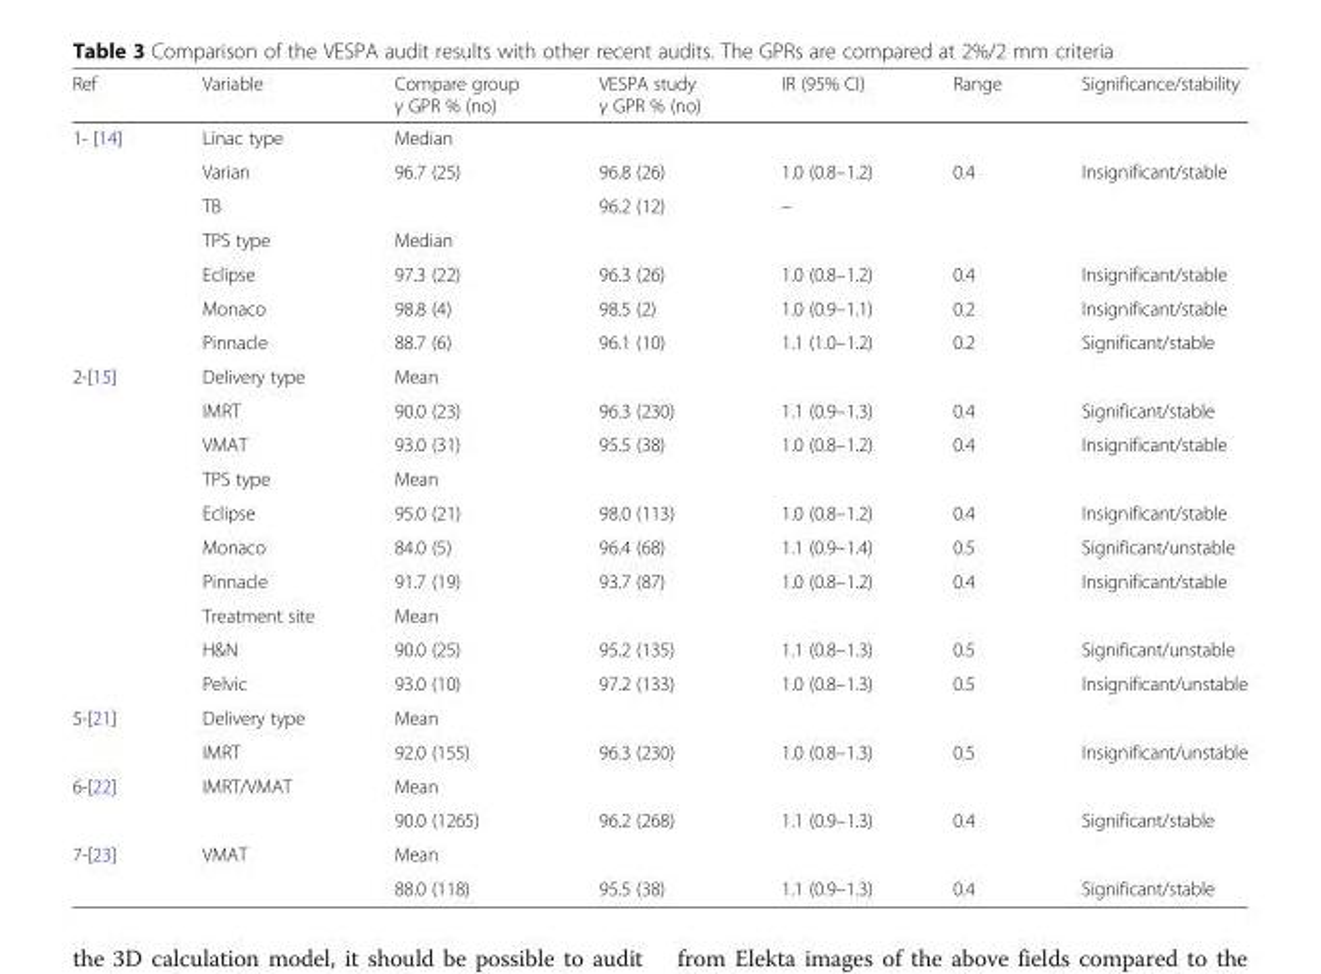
<table><thead><tr><td>Ref</td><td>Variable</td><td>Compare group γ GPR % (no)</td><td>VESPA study γ GPR % (no)</td><td>IR (95% CI)</td><td>Range</td><td>Significance/stability</td></tr></thead><tbody><tr><td rowspan="7">1- [14]</td><td>Linac type</td><td colspan="3">Median</td><td></td><td></td></tr><tr><td>Varian</td><td>96.7 (25)</td><td>96.8 (26)</td><td>1.0 (0.8–1.2)</td><td>0.4</td><td>Insignificant/stable</td></tr><tr><td>TB</td><td></td><td>96.2 (12)</td><td>–</td><td></td><td></td></tr><tr><td>TPS type</td><td colspan="3">Median</td><td></td><td></td></tr><tr><td>Eclipse</td><td>97.3 (22)</td><td>96.3 (26)</td><td>1.0 (0.8–1.2)</td><td>0.4</td><td>Insignificant/stable</td></tr><tr><td>Monaco</td><td>98.8 (4)</td><td>98.5 (2)</td><td>1.0 (0.9–1.1)</td><td>0.2</td><td>Insignificant/stable</td></tr><tr><td>Pinnacle</td><td>88.7 (6)</td><td>96.1 (10)</td><td>1.1 (1.0–1.2)</td><td>0.2</td><td>Significant/stable</td></tr><tr><td rowspan="10">2-[15]</td><td>Delivery type</td><td colspan="3">Mean</td><td></td><td></td></tr><tr><td>IMRT</td><td>90.0 (23)</td><td>96.3 (230)</td><td>1.1 (0.9–1.3)</td><td>0.4</td><td>Significant/stable</td></tr><tr><td>VMAT</td><td>93.0 (31)</td><td>95.5 (38)</td><td>1.0 (0.8–1.2)</td><td>0.4</td><td>Insignificant/stable</td></tr><tr><td>TPS type</td><td colspan="3">Mean</td><td></td><td></td></tr><tr><td>Eclipse</td><td>95.0 (21)</td><td>98.0 (113)</td><td>1.0 (0.8–1.2)</td><td>0.4</td><td>Insignificant/stable</td></tr><tr><td>Monaco</td><td>84.0 (5)</td><td>96.4 (68)</td><td>1.1 (0.9–1.4)</td><td>0.5</td><td>Significant/unstable</td></tr><tr><td>Pinnacle</td><td>91.7 (19)</td><td>93.7 (87)</td><td>1.0 (0.8–1.2)</td><td>0.4</td><td>Insignificant/stable</td></tr><tr><td>Treatment site</td><td colspan="3">Mean</td><td></td><td></td></tr><tr><td>H&amp;N</td><td>90.0 (25)</td><td>95.2 (135)</td><td>1.1 (0.8–1.3)</td><td>0.5</td><td>Significant/unstable</td></tr><tr><td>Pelvic</td><td>93.0 (10)</td><td>97.2 (133)</td><td>1.0 (0.8–1.3)</td><td>0.5</td><td>Insignificant/unstable</td></tr><tr><td rowspan="2">5-[21]</td><td>Delivery type</td><td colspan="3">Mean</td><td></td><td></td></tr><tr><td>IMRT</td><td>92.0 (155)</td><td>96.3 (230)</td><td>1.0 (0.8–1.3)</td><td>0.5</td><td>Insignificant/unstable</td></tr><tr><td rowspan="2">6-[22]</td><td rowspan="2">IMRT/VMAT</td><td colspan="3">Mean</td><td></td><td></td></tr><tr><td>90.0 (1265)</td><td>96.2 (268)</td><td>1.1 (0.9–1.3)</td><td>0.4</td><td>Significant/stable</td></tr><tr><td rowspan="2">7-[23]</td><td rowspan="2">VMAT</td><td colspan="3">Mean</td><td></td><td></td></tr><tr><td>88.0 (118)</td><td>95.5 (38)</td><td>1.1 (0.9–1.3)</td><td>0.4</td><td>Significant/stable</td></tr></tbody></table>